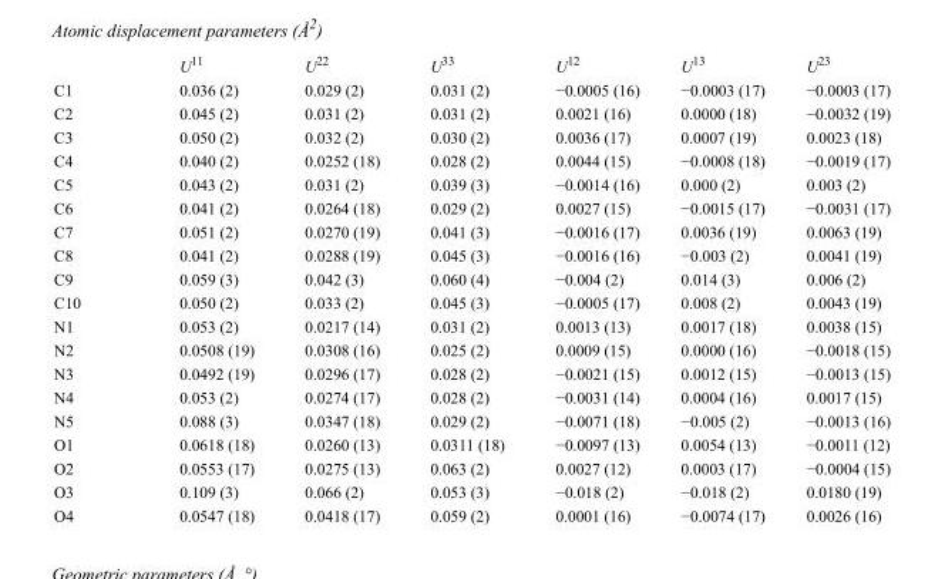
<table><thead><tr><td></td><td>U<sup>11</sup></td><td>U<sup>22</sup></td><td>U<sup>33</sup></td><td>U<sup>12</sup></td><td>U<sup>13</sup></td><td>U<sup>23</sup></td></tr></thead><tbody><tr><td>C1</td><td>0.036 (2)</td><td>0.029 (2)</td><td>0.031 (2)</td><td>−0.0005 (16)</td><td>−0.0003 (17)</td><td>−0.0003 (17)</td></tr><tr><td>C2</td><td>0.045 (2)</td><td>0.031 (2)</td><td>0.031 (2)</td><td>0.0021 (16)</td><td>0.0000 (18)</td><td>−0.0032 (19)</td></tr><tr><td>C3</td><td>0.050 (2)</td><td>0.032 (2)</td><td>0.030 (2)</td><td>0.0036 (17)</td><td>0.0007 (19)</td><td>0.0023 (18)</td></tr><tr><td>C4</td><td>0.040 (2)</td><td>0.0252 (18)</td><td>0.028 (2)</td><td>0.0044 (15)</td><td>−0.0008 (18)</td><td>−0.0019 (17)</td></tr><tr><td>C5</td><td>0.043 (2)</td><td>0.031 (2)</td><td>0.039 (3)</td><td>−0.0014 (16)</td><td>0.000 (2)</td><td>0.003 (2)</td></tr><tr><td>C6</td><td>0.041 (2)</td><td>0.0264 (18)</td><td>0.029 (2)</td><td>0.0027 (15)</td><td>−0.0015 (17)</td><td>−0.0031 (17)</td></tr><tr><td>C7</td><td>0.051 (2)</td><td>0.0270 (19)</td><td>0.041 (3)</td><td>−0.0016 (17)</td><td>0.0036 (19)</td><td>0.0063 (19)</td></tr><tr><td>C8</td><td>0.041 (2)</td><td>0.0288 (19)</td><td>0.045 (3)</td><td>−0.0016 (16)</td><td>−0.003 (2)</td><td>0.0041 (19)</td></tr><tr><td>C9</td><td>0.059 (3)</td><td>0.042 (3)</td><td>0.060 (4)</td><td>−0.004 (2)</td><td>0.014 (3)</td><td>0.006 (2)</td></tr><tr><td>C10</td><td>0.050 (2)</td><td>0.033 (2)</td><td>0.045 (3)</td><td>−0.0005 (17)</td><td>0.008 (2)</td><td>0.0043 (19)</td></tr><tr><td>N1</td><td>0.053 (2)</td><td>0.0217 (14)</td><td>0.031 (2)</td><td>0.0013 (13)</td><td>0.0017 (18)</td><td>0.0038 (15)</td></tr><tr><td>N2</td><td>0.0508 (19)</td><td>0.0308 (16)</td><td>0.025 (2)</td><td>0.0009 (15)</td><td>0.0000 (16)</td><td>−0.0018 (15)</td></tr><tr><td>N3</td><td>0.0492 (19)</td><td>0.0296 (17)</td><td>0.028 (2)</td><td>−0.0021 (15)</td><td>0.0012 (15)</td><td>−0.0013 (15)</td></tr><tr><td>N4</td><td>0.053 (2)</td><td>0.0274 (17)</td><td>0.028 (2)</td><td>−0.0031 (14)</td><td>0.0004 (16)</td><td>0.0017 (15)</td></tr><tr><td>N5</td><td>0.088 (3)</td><td>0.0347 (18)</td><td>0.029 (2)</td><td>−0.0071 (18)</td><td>−0.005 (2)</td><td>−0.0013 (16)</td></tr><tr><td>O1</td><td>0.0618 (18)</td><td>0.0260 (13)</td><td>0.0311 (18)</td><td>−0.0097 (13)</td><td>0.0054 (13)</td><td>−0.0011 (12)</td></tr><tr><td>O2</td><td>0.0553 (17)</td><td>0.0275 (13)</td><td>0.063 (2)</td><td>0.0027 (12)</td><td>0.0003 (17)</td><td>−0.0004 (15)</td></tr><tr><td>O3</td><td>0.109 (3)</td><td>0.066 (2)</td><td>0.053 (3)</td><td>−0.018 (2)</td><td>−0.018 (2)</td><td>0.0180 (19)</td></tr><tr><td>O4</td><td>0.0547 (18)</td><td>0.0418 (17)</td><td>0.059 (2)</td><td>0.0001 (16)</td><td>−0.0074 (17)</td><td>0.0026 (16)</td></tr></tbody></table>